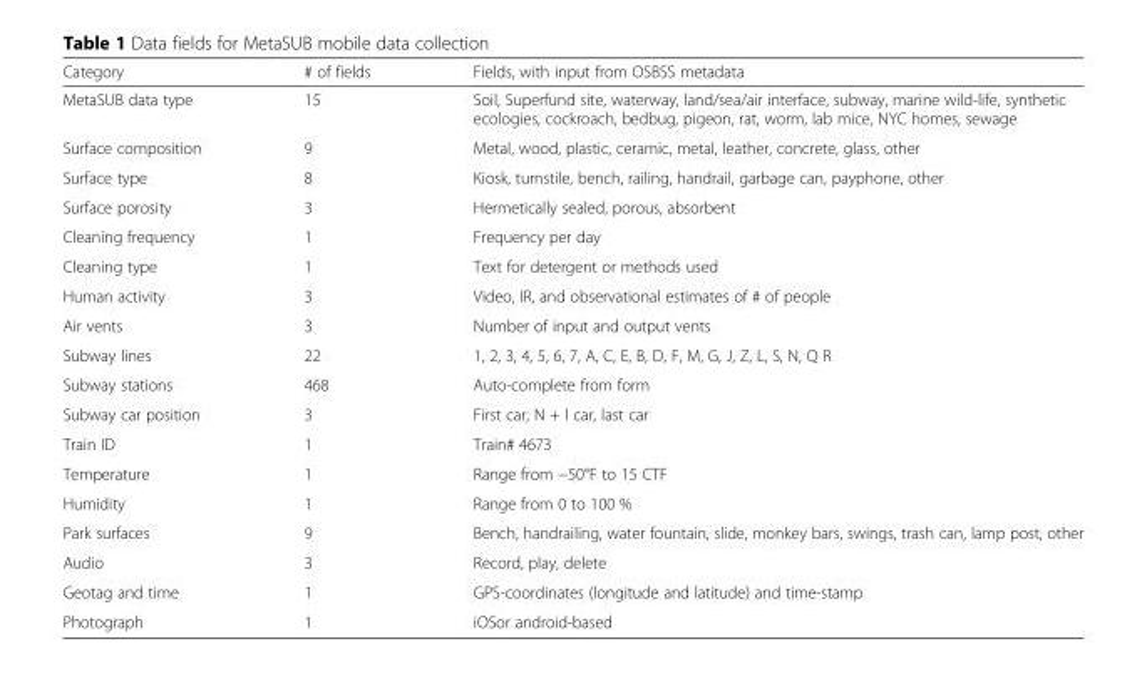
<table><thead><tr><td>Category</td><td># of fields</td><td>Fields, with input from OSBSS metadata</td></tr></thead><tbody><tr><td>MetaSUB data type</td><td>15</td><td>Soil, Superfund site, waterway, land/sea/air interface, subway, marine wild-life, synthetic ecologies, cockroach, bedbug, pigeon, rat, worm, lab mice, NYC homes, sewage</td></tr><tr><td>Surface composition</td><td>9</td><td>Metal, wood, plastic, ceramic, metal, leather, concrete, glass, other</td></tr><tr><td>Surface type</td><td>8</td><td>Kiosk, turnstile, bench, railing, handrail, garbage can, payphone, other</td></tr><tr><td>Surface porosity</td><td>3</td><td>Hermetically sealed, porous, absorbent</td></tr><tr><td>Cleaning frequency</td><td>1</td><td>Frequency per day</td></tr><tr><td>Cleaning type</td><td>1</td><td>Text for detergent or methods used</td></tr><tr><td>Human activity</td><td>3</td><td>Video, IR, and observational estimates of # of people</td></tr><tr><td>Air vents</td><td>3</td><td>Number of input and output vents</td></tr><tr><td>Subway lines</td><td>22</td><td>1, 2, 3, 4, 5, 6, 7, A, C, E, B, D, F, M, G, J, Z, L, S, N, Q R</td></tr><tr><td>Subway stations</td><td>468</td><td>Auto-complete from form</td></tr><tr><td>Subway car position</td><td>3</td><td>First car, N + l car, last car</td></tr><tr><td>Train ID</td><td>1</td><td>Train# 4673</td></tr><tr><td>Temperature</td><td>1</td><td>Range from −50°F to 15 CTF</td></tr><tr><td>Humidity</td><td>1</td><td>Range from 0 to 100 %</td></tr><tr><td>Park surfaces</td><td>9</td><td>Bench, handrailing, water fountain, slide, monkey bars, swings, trash can, lamp post, other</td></tr><tr><td>Audio</td><td>3</td><td>Record, play, delete</td></tr><tr><td>Geotag and time</td><td>1</td><td>GPS-coordinates (longitude and latitude) and time-stamp</td></tr><tr><td>Photograph</td><td>1</td><td>iOSor android-based</td></tr></tbody></table>